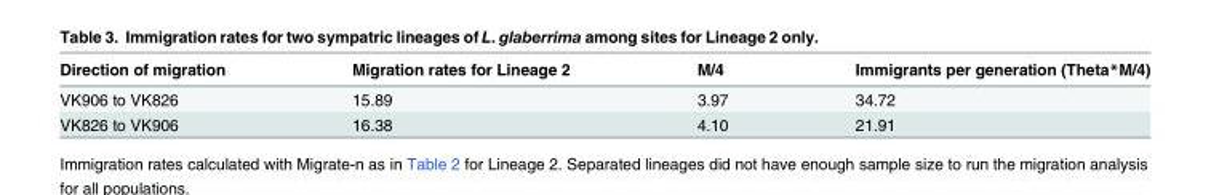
<table><thead><tr><td>Direction of migration</td><td>Migration rates for Lineage 2</td><td>M/4</td><td>Immigrants per generation (Theta*M/4)</td></tr></thead><tbody><tr><td>VK906 to VK826</td><td>15.89</td><td>3.97</td><td>34.72</td></tr><tr><td>VK826 to VK906</td><td>16.38</td><td>4.10</td><td>21.91</td></tr></tbody></table>